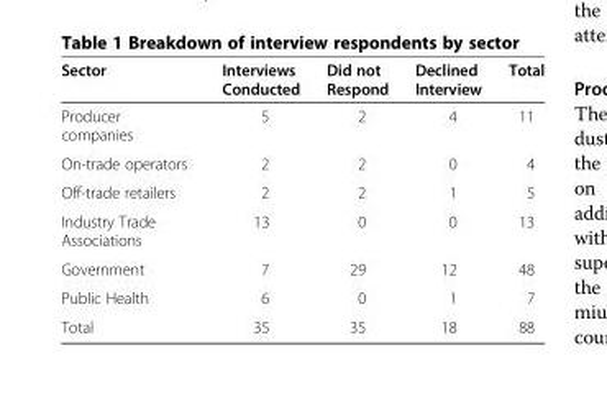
<table><thead><tr><td>Sector</td><td>Interviews Conducted</td><td>Did not Respond</td><td>Declined Interview</td><td>Total</td></tr></thead><tbody><tr><td>Producer companies</td><td>5</td><td>2</td><td>4</td><td>11</td></tr><tr><td>On-trade operators</td><td>2</td><td>2</td><td>0</td><td>4</td></tr><tr><td>Off-trade retailers</td><td>2</td><td>2</td><td>1</td><td>5</td></tr><tr><td>Industry Trade Associations</td><td>13</td><td>0</td><td>0</td><td>13</td></tr><tr><td>Government</td><td>7</td><td>29</td><td>12</td><td>48</td></tr><tr><td>Public Health</td><td>6</td><td>0</td><td>1</td><td>7</td></tr><tr><td>Total</td><td>35</td><td>35</td><td>18</td><td>88</td></tr></tbody></table>